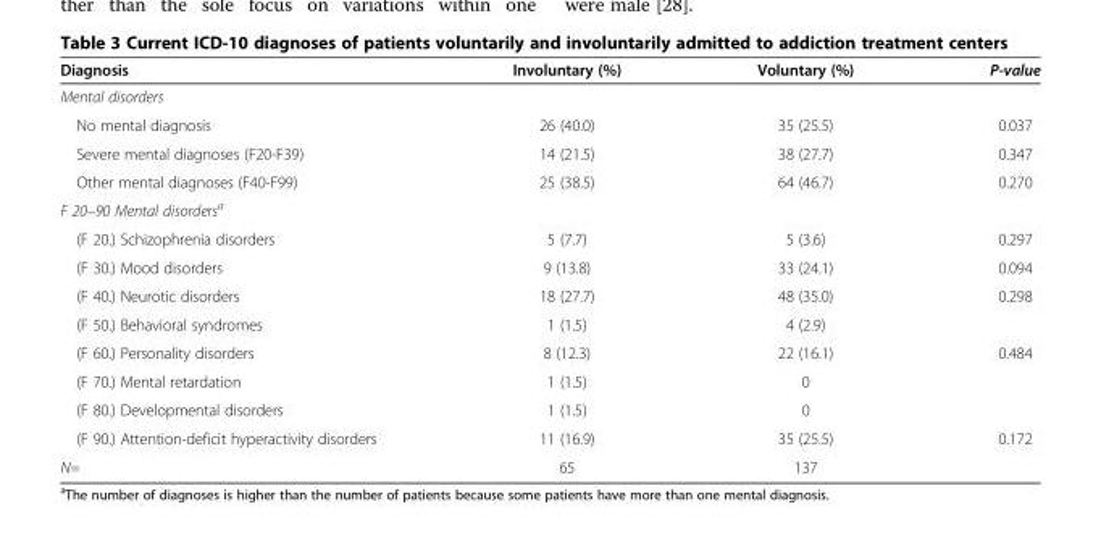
<table><thead><tr><td>Diagnosis</td><td>Involuntary (%)</td><td>Voluntary (%)</td><td>P-value</td></tr></thead><tbody><tr><td colspan="4">Mental disorders</td></tr><tr><td>No mental diagnosis</td><td>26 (40.0)</td><td>35 (25.5)</td><td>0.037</td></tr><tr><td>Severe mental diagnoses (F20-F39)</td><td>14 (21.5)</td><td>38 (27.7)</td><td>0.347</td></tr><tr><td>Other mental diagnoses (F40-F99)</td><td>25 (38.5)</td><td>64 (46.7)</td><td>0.270</td></tr><tr><td colspan="4">F 20–90 Mental disorders<sup>a</sup></td></tr><tr><td>(F 20.) Schizophrenia disorders</td><td>5 (7.7)</td><td>5 (3.6)</td><td>0.297</td></tr><tr><td>(F 30.) Mood disorders</td><td>9 (13.8)</td><td>33 (24.1)</td><td>0.094</td></tr><tr><td>(F 40.) Neurotic disorders</td><td>18 (27.7)</td><td>48 (35.0)</td><td>0.298</td></tr><tr><td>(F 50.) Behavioral syndromes</td><td>1 (1.5)</td><td>4 (2.9)</td><td></td></tr><tr><td>(F 60.) Personality disorders</td><td>8 (12.3)</td><td>22 (16.1)</td><td>0.484</td></tr><tr><td>(F 70.) Mental retardation</td><td>1 (1.5)</td><td>0</td><td></td></tr><tr><td>(F 80.) Developmental disorders</td><td>1 (1.5)</td><td>0</td><td></td></tr><tr><td>(F 90.) Attention-deficit hyperactivity disorders</td><td>11 (16.9)</td><td>35 (25.5)</td><td>0.172</td></tr><tr><td>N=</td><td>65</td><td>137</td><td></td></tr></tbody></table>